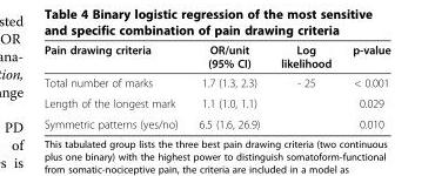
<table><thead><tr><td>Pain drawing criteria</td><td>OR/unit (95% CI)</td><td>Log likelihood</td><td>p-value</td></tr></thead><tbody><tr><td>Total number of marks</td><td>1.7 (1.3, 2.3)</td><td>- 25</td><td>&lt; 0.001</td></tr><tr><td>Length of the longest mark</td><td>1.1 (1.0, 1.1)</td><td></td><td>0.029</td></tr><tr><td>Symmetric patterns (yes/no)</td><td>6.5 (1.6, 26.9)</td><td></td><td>0.010</td></tr></tbody></table>